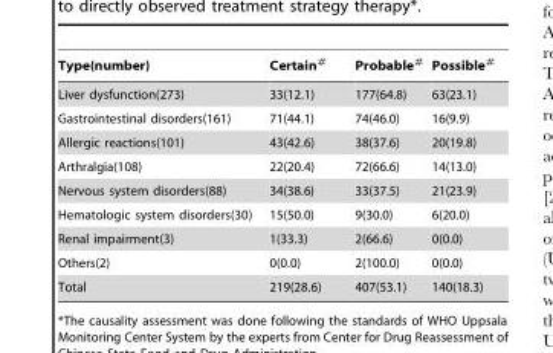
<table><thead><tr><td>Type(number)</td><td>Certain#</td><td>Probable#</td><td>Possible#</td></tr></thead><tbody><tr><td>Liver dysfunction(273)</td><td>33(12.1)</td><td>177(64.8)</td><td>63(23.1)</td></tr><tr><td>Gastrointestinal disorders(161)</td><td>71(44.1)</td><td>74(46.0)</td><td>16(9.9)</td></tr><tr><td>Allergic reactions(101)</td><td>43(42.6)</td><td>38(37.6)</td><td>20(19.8)</td></tr><tr><td>Arthralgia(108)</td><td>22(20.4)</td><td>72(66.6)</td><td>14(13.0)</td></tr><tr><td>Nervous system disorders(88)</td><td>34(38.6)</td><td>33(37.5)</td><td>21(23.9)</td></tr><tr><td>Hematologic system disorders(30)</td><td>15(50.0)</td><td>9(30.0)</td><td>6(20.0)</td></tr><tr><td>Renal impairment(3)</td><td>1(33.3)</td><td>2(66.6)</td><td>0(0.0)</td></tr><tr><td>Others(2)</td><td>0(0.0)</td><td>2(100.0)</td><td>0(0.0)</td></tr><tr><td>Total</td><td>219(28.6)</td><td>407(53.1)</td><td>140(18.3)</td></tr></tbody></table>